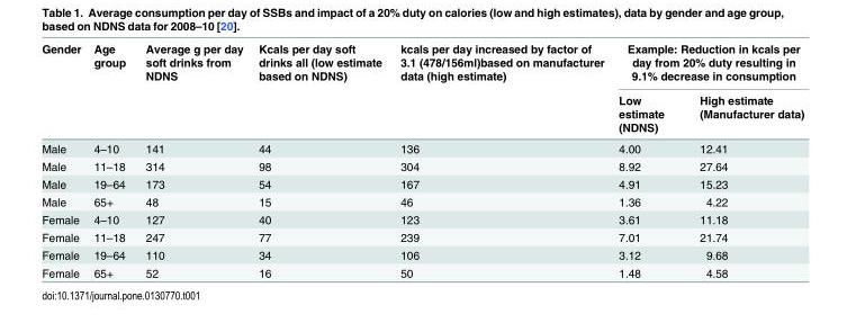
<table><thead><tr><td rowspan="2">Gender</td><td rowspan="2">Age group</td><td rowspan="2">Average g per day soft drinks from NDNS</td><td rowspan="2">Kcals per day soft drinks all (low estimate based on NDNS)</td><td rowspan="2">kcals per day increased by factor of 3.1 (478/156ml)based on manufacturer data (high estimate)</td><td colspan="2">Example: Reduction in kcals per day from 20% duty resulting in 9.1% decrease in consumption</td></tr><tr><td>Low estimate (NDNS)</td><td>High estimate (Manufacturer data)</td></tr></thead><tbody><tr><td>Male</td><td>4–10</td><td>141</td><td>44</td><td>136</td><td>4.00</td><td>12.41</td></tr><tr><td>Male</td><td>11–18</td><td>314</td><td>98</td><td>304</td><td>8.92</td><td>27.64</td></tr><tr><td>Male</td><td>19–64</td><td>173</td><td>54</td><td>167</td><td>4.91</td><td>15.23</td></tr><tr><td>Male</td><td>65+</td><td>48</td><td>15</td><td>46</td><td>1.36</td><td>4.22</td></tr><tr><td>Female</td><td>4–10</td><td>127</td><td>40</td><td>123</td><td>3.61</td><td>11.18</td></tr><tr><td>Female</td><td>11–18</td><td>247</td><td>77</td><td>239</td><td>7.01</td><td>21.74</td></tr><tr><td>Female</td><td>19–64</td><td>110</td><td>34</td><td>106</td><td>3.12</td><td>9.68</td></tr><tr><td>Female</td><td>65+</td><td>52</td><td>16</td><td>50</td><td>1.48</td><td>4.58</td></tr></tbody></table>